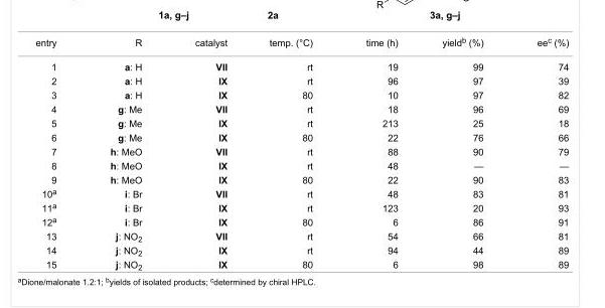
<table><tbody><tr><td>entry</td><td>R</td><td>catalyst</td><td>temp. (°C)</td><td>time (h)</td><td>yield<sup>b</sup> (%)</td><td>ee<sup>c</sup> (%)</td></tr><tr><td>1</td><td>a: H</td><td>VII</td><td>rt</td><td>19</td><td>99</td><td>74</td></tr><tr><td>2</td><td>a: H</td><td>IX</td><td>rt</td><td>96</td><td>97</td><td>39</td></tr><tr><td>3</td><td>a: H</td><td>IX</td><td>80</td><td>10</td><td>97</td><td>82</td></tr><tr><td>4</td><td>g: Me</td><td>VII</td><td>rt</td><td>18</td><td>96</td><td>69</td></tr><tr><td>5</td><td>g: Me</td><td>IX</td><td>rt</td><td>213</td><td>25</td><td>18</td></tr><tr><td>6</td><td>g: Me</td><td>IX</td><td>80</td><td>22</td><td>76</td><td>66</td></tr><tr><td>7</td><td>h: MeO</td><td>VII</td><td>rt</td><td>88</td><td>90</td><td>79</td></tr><tr><td>8</td><td>h: MeO</td><td>IX</td><td>rt</td><td>48</td><td>—</td><td>—</td></tr><tr><td>9</td><td>h: MeO</td><td>IX</td><td>80</td><td>22</td><td>90</td><td>83</td></tr><tr><td>10<sup>a</sup></td><td>i: Br</td><td>VII</td><td>rt</td><td>48</td><td>83</td><td>81</td></tr><tr><td>11<sup>a</sup></td><td>i: Br</td><td>IX</td><td>rt</td><td>123</td><td>20</td><td>93</td></tr><tr><td>12<sup>a</sup></td><td>i: Br</td><td>IX</td><td>80</td><td>6</td><td>86</td><td>91</td></tr><tr><td>13</td><td>j: NO<sub>2</sub></td><td>VII</td><td>rt</td><td>54</td><td>66</td><td>81</td></tr><tr><td>14</td><td>j: NO<sub>2</sub></td><td>IX</td><td>rt</td><td>94</td><td>44</td><td>89</td></tr><tr><td>15</td><td>j: NO<sub>2</sub></td><td>IX</td><td>80</td><td>6</td><td>98</td><td>89</td></tr></tbody></table>